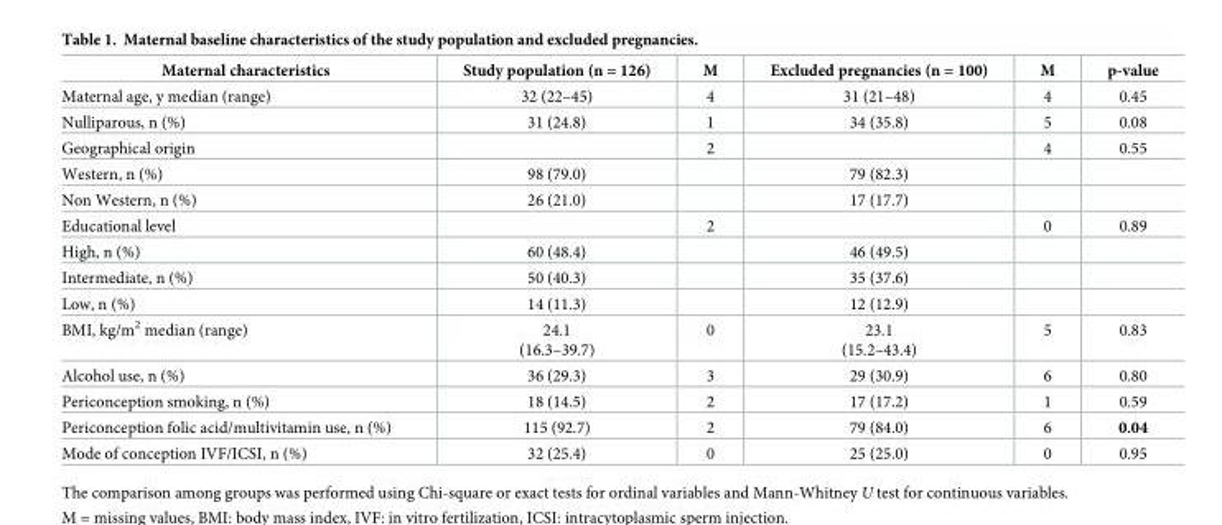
<table><thead><tr><td>Maternal characteristics</td><td>Study population (n = 126)</td><td>M</td><td>Excluded pregnancies (n = 100)</td><td>M</td><td>p-value</td></tr></thead><tbody><tr><td>Maternal age, y median (range)</td><td>32 (22–45)</td><td>4</td><td>31 (21–48)</td><td>4</td><td>0.45</td></tr><tr><td>Nulliparous, n (%)</td><td>31 (24.8)</td><td>1</td><td>34 (35.8)</td><td>5</td><td>0.08</td></tr><tr><td>Geographical origin</td><td></td><td>2</td><td></td><td>4</td><td>0.55</td></tr><tr><td>Western, n (%)</td><td>98 (79.0)</td><td></td><td>79 (82.3)</td><td></td><td></td></tr><tr><td>Non Western, n (%)</td><td>26 (21.0)</td><td></td><td>17 (17.7)</td><td></td><td></td></tr><tr><td>Educational level</td><td></td><td>2</td><td></td><td>0</td><td>0.89</td></tr><tr><td>High, n (%)</td><td>60 (48.4)</td><td></td><td>46 (49.5)</td><td></td><td></td></tr><tr><td>Intermediate, n (%)</td><td>50 (40.3)</td><td></td><td>35 (37.6)</td><td></td><td></td></tr><tr><td>Low, n (%)</td><td>14 (11.3)</td><td></td><td>12 (12.9)</td><td></td><td></td></tr><tr><td>BMI, kg/m<sup>2</sup> median (range)</td><td>24.1 (16.3–39.7)</td><td>0</td><td>23.1 (15.2–43.4)</td><td>5</td><td>0.83</td></tr><tr><td>Alcohol use, n (%)</td><td>36 (29.3)</td><td>3</td><td>29 (30.9)</td><td>6</td><td>0.80</td></tr><tr><td>Periconception smoking, n (%)</td><td>18 (14.5)</td><td>2</td><td>17 (17.2)</td><td>1</td><td>0.59</td></tr><tr><td>Periconception folic acid/multivitamin use, n (%)</td><td>115 (92.7)</td><td>2</td><td>79 (84.0)</td><td>6</td><td>0.04</td></tr><tr><td>Mode of conception IVF/ICSI, n (%)</td><td>32 (25.4)</td><td>0</td><td>25 (25.0)</td><td>0</td><td>0.95</td></tr></tbody></table>